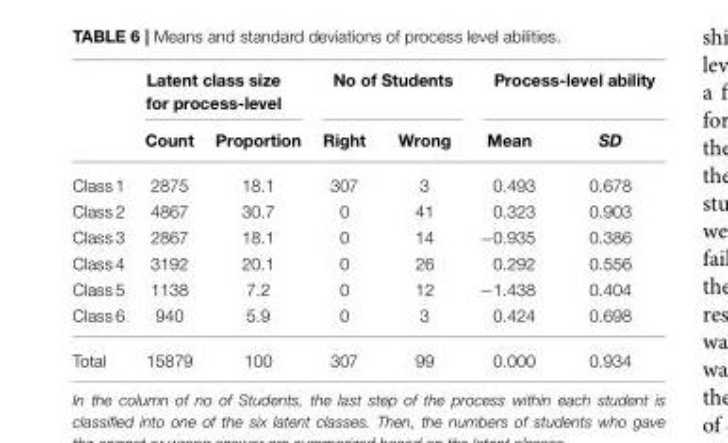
<table><thead><tr><td rowspan="2"></td><td colspan="2">Latent class size for process-level</td><td colspan="2">No of Students</td><td colspan="2">Process-level ability</td></tr><tr><td>Count</td><td>Proportion</td><td>Right</td><td>Wrong</td><td>Mean</td><td>SD</td></tr></thead><tbody><tr><td>Class 1</td><td>2875</td><td>18.1</td><td>307</td><td>3</td><td>0.493</td><td>0.678</td></tr><tr><td>Class 2</td><td>4867</td><td>30.7</td><td>0</td><td>41</td><td>0.323</td><td>0.903</td></tr><tr><td>Class 3</td><td>2867</td><td>18.1</td><td>0</td><td>14</td><td>−0.935</td><td>0.386</td></tr><tr><td>Class 4</td><td>3192</td><td>20.1</td><td>0</td><td>26</td><td>0.292</td><td>0.556</td></tr><tr><td>Class 5</td><td>1138</td><td>7.2</td><td>0</td><td>12</td><td>−1.438</td><td>0.404</td></tr><tr><td>Class 6</td><td>940</td><td>5.9</td><td>0</td><td>3</td><td>0.424</td><td>0.698</td></tr><tr><td>Total</td><td>15879</td><td>100</td><td>307</td><td>99</td><td>0.000</td><td>0.934</td></tr></tbody></table>